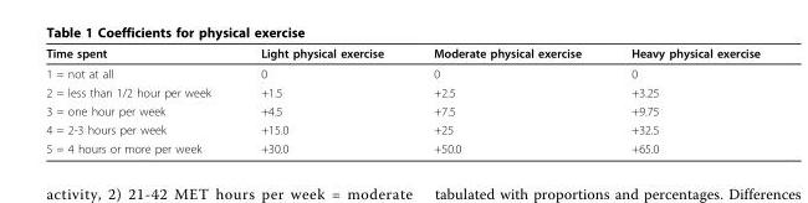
<table><thead><tr><td>Time spent</td><td>Light physical exercise</td><td>Moderate physical exercise</td><td>Heavy physical exercise</td></tr></thead><tbody><tr><td>1 = not at all</td><td>0</td><td>0</td><td>0</td></tr><tr><td>2 = less than 1/2 hour per week</td><td>+1.5</td><td>+2.5</td><td>+3.25</td></tr><tr><td>3 = one hour per week</td><td>+4.5</td><td>+7.5</td><td>+9.75</td></tr><tr><td>4 = 2-3 hours per week</td><td>+15.0</td><td>+25</td><td>+32.5</td></tr><tr><td>5 = 4 hours or more per week</td><td>+30.0</td><td>+50.0</td><td>+65.0</td></tr></tbody></table>